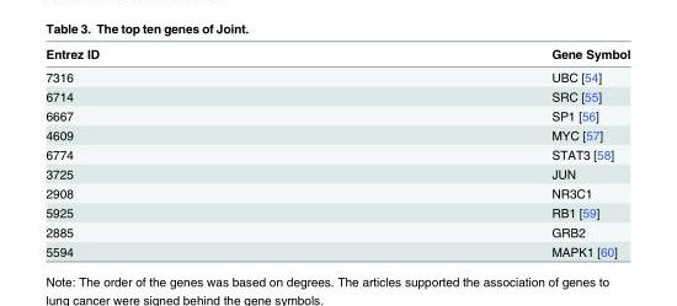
<table><thead><tr><td>Entrez ID</td><td>Gene Symbol</td></tr></thead><tbody><tr><td>7316</td><td>UBC [54]</td></tr><tr><td>6714</td><td>SRC [55]</td></tr><tr><td>6667</td><td>SP1 [56]</td></tr><tr><td>4609</td><td>MYC [57]</td></tr><tr><td>6774</td><td>STAT3 [58]</td></tr><tr><td>3725</td><td>JUN</td></tr><tr><td>2908</td><td>NR3C1</td></tr><tr><td>5925</td><td>RB1 [59]</td></tr><tr><td>2885</td><td>GRB2</td></tr><tr><td>5594</td><td>MAPK1 [60]</td></tr></tbody></table>